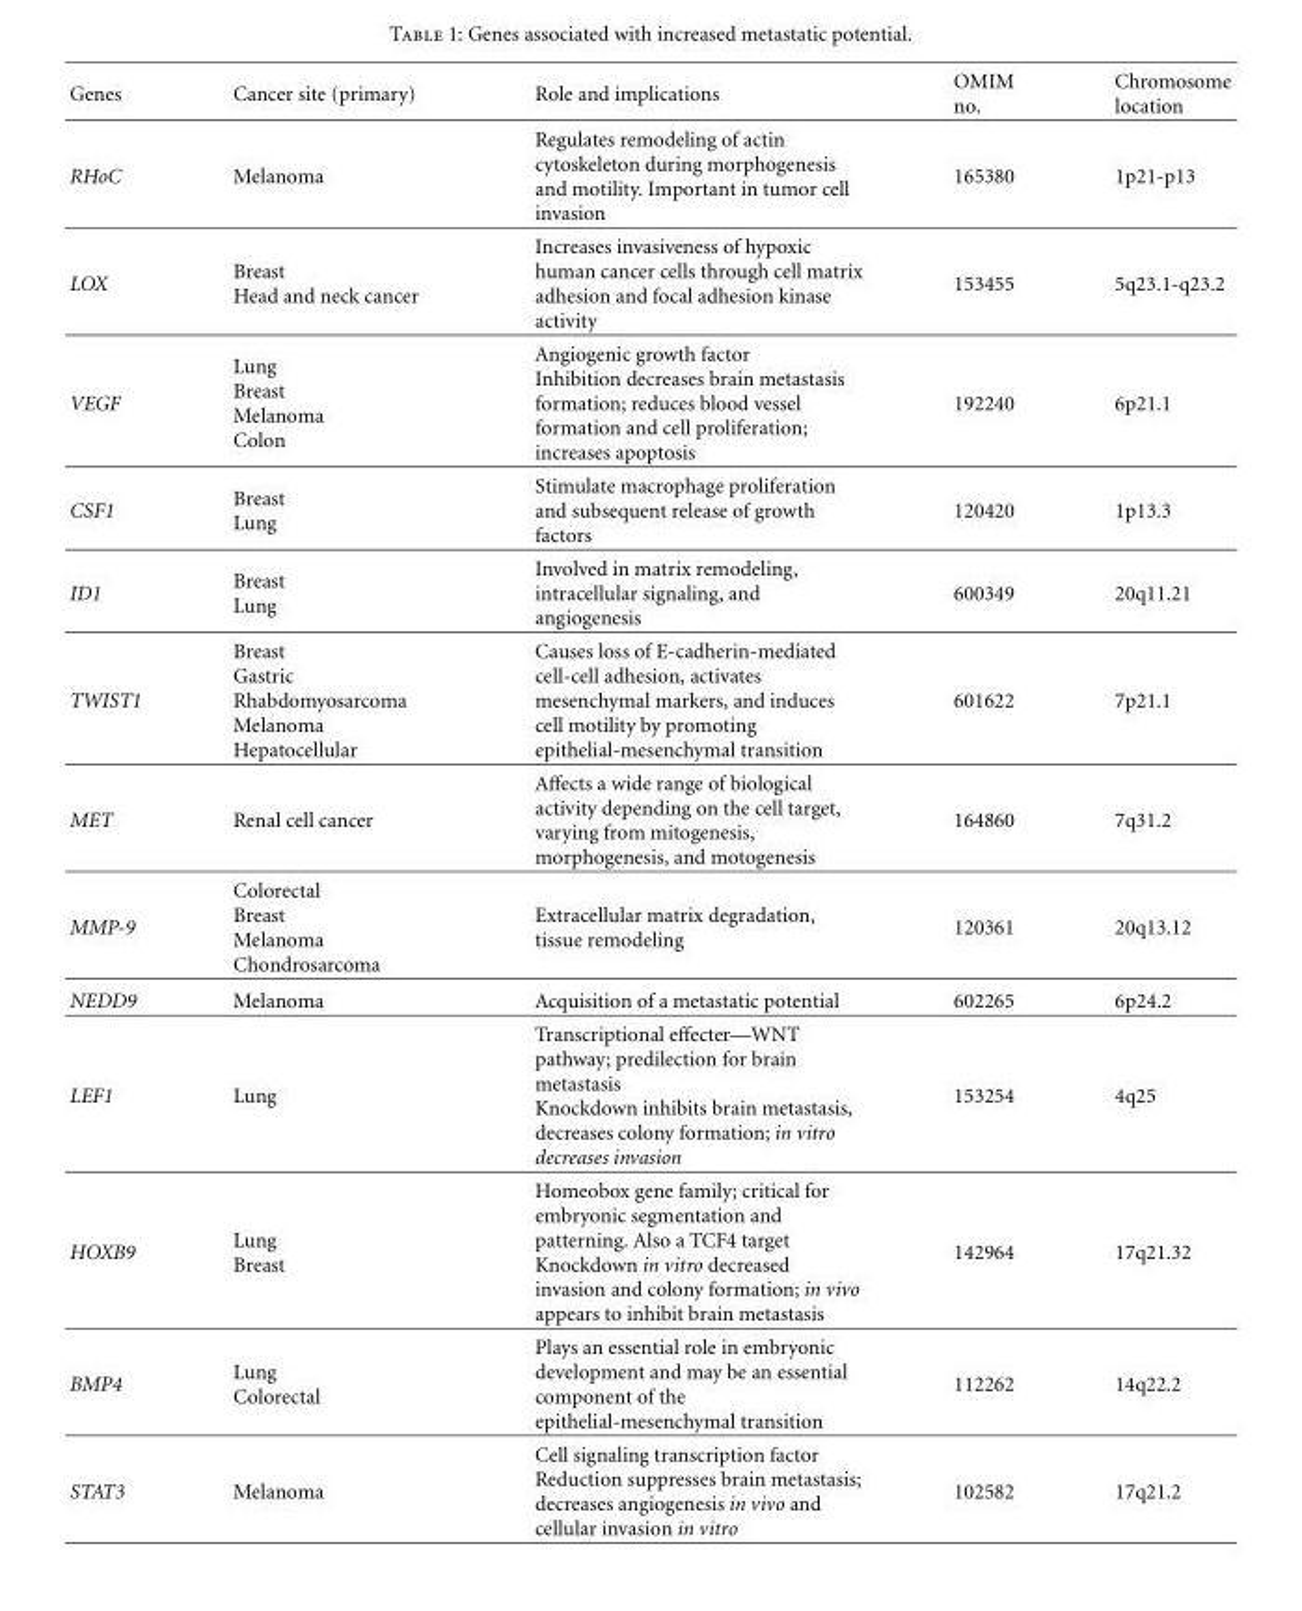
<table><thead><tr><td>Genes</td><td>Cancer site (primary)</td><td>Role and implications</td><td>OMIM no.</td><td>Chromosome location</td></tr></thead><tbody><tr><td>RHoC</td><td>Melanoma</td><td>Regulates remodeling of actin cytoskeleton during morphogenesis and motility. Important in tumor cell invasion</td><td>165380</td><td>1p21-p13</td></tr><tr><td>LOX</td><td>Breast Head and neck cancer</td><td>Increases invasiveness of hypoxic human cancer cells through cell matrix adhesion and focal adhesion kinase activity</td><td>153455</td><td>5q23.1-q23.2</td></tr><tr><td>VEGF</td><td>Lung Breast Melanoma Colon</td><td>Angiogenic growth factor Inhibition decreases brain metastasis formation; reduces blood vessel formation and cell proliferation; increases apoptosis</td><td>192240</td><td>6p21.1</td></tr><tr><td>CSF1</td><td>Breast Lung</td><td>Stimulate macrophage proliferation and subsequent release of growth factors</td><td>120420</td><td>1p13.3</td></tr><tr><td>ID1</td><td>Breast Lung</td><td>Involved in matrix remodeling, intracellular signaling, and angiogenesis</td><td>600349</td><td>20q11.21</td></tr><tr><td>TWIST1</td><td>Breast Gastric Rhabdomyosarcoma Melanoma Hepatocellular</td><td>Causes loss of E-cadherin-mediated cell-cell adhesion, activates mesenchymal markers, and induces cell motility by promoting epithelial-mesenchymal transition</td><td>601622</td><td>7p21.1</td></tr><tr><td>MET</td><td>Renal cell cancer</td><td>Affects a wide range of biological activity depending on the cell target, varying from mitogenesis, morphogenesis, and motogenesis</td><td>164860</td><td>7q31.2</td></tr><tr><td>MMP-9</td><td>Colorectal Breast Melanoma Chondrosarcoma</td><td>Extracellular matrix degradation, tissue remodeling</td><td>120361</td><td>20q13.12</td></tr><tr><td>NEDD9</td><td>Melanoma</td><td>Acquisition of a metastatic potential</td><td>602265</td><td>6p24.2</td></tr><tr><td>LEF1</td><td>Lung</td><td>Transcriptional effecter—WNT pathway; predilection for brain metastasis Knockdown inhibits brain metastasis, decreases colony formation; in vitro decreases invasion</td><td>153254</td><td>4q25</td></tr><tr><td>HOXB9</td><td>Lung Breast</td><td>Homeobox gene family; critical for embryonic segmentation and patterning. Also a TCF4 target Knockdown in vitro decreased invasion and colony formation; in vivo appears to inhibit brain metastasis</td><td>142964</td><td>17q21.32</td></tr><tr><td>BMP4</td><td>Lung Colorectal</td><td>Plays an essential role in embryonic development and may be an essential component of the epithelial-mesenchymal transition</td><td>112262</td><td>14q22.2</td></tr><tr><td>STAT3</td><td>Melanoma</td><td>Cell signaling transcription factor Reduction suppresses brain metastasis; decreases angiogenesis in vivo and cellular invasion in vitro</td><td>102582</td><td>17q21.2</td></tr></tbody></table>